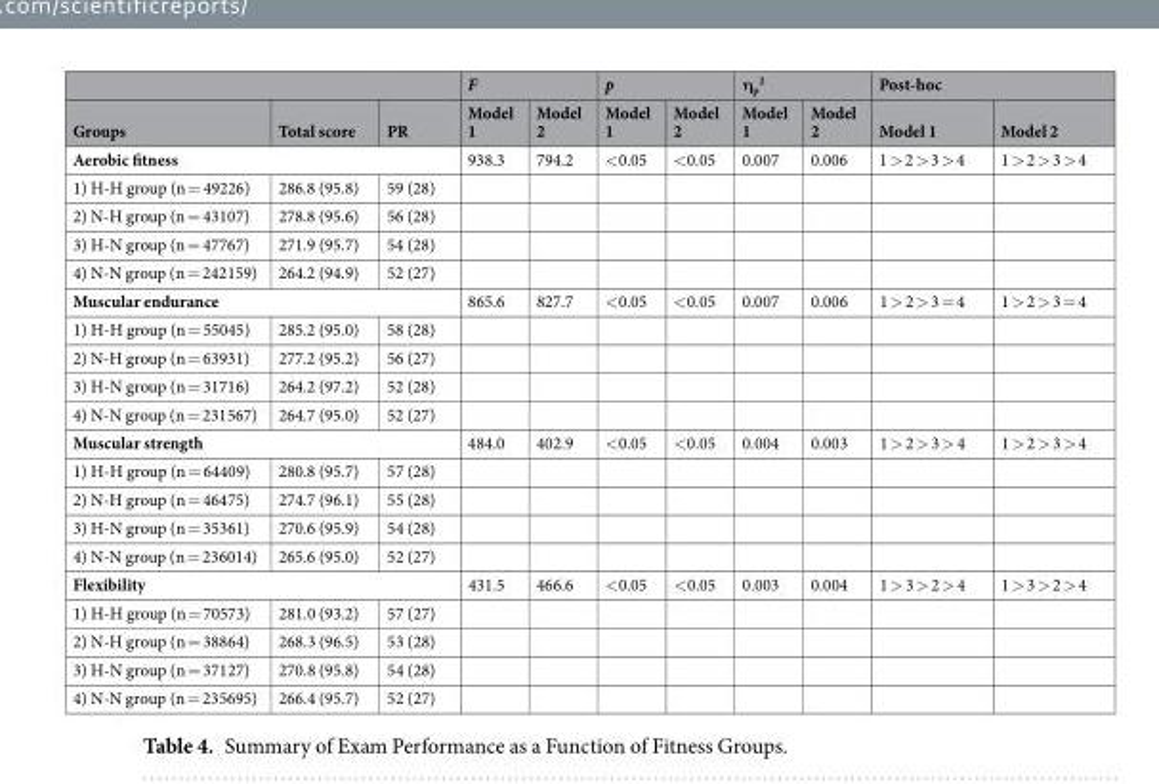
<table><thead><tr><td rowspan="2">Groups</td><td rowspan="2">Total score</td><td rowspan="2">PR</td><td colspan="2">F</td><td colspan="2">p</td><td colspan="2">η<sub>p</sub> <sup>2</sup></td><td colspan="2">Post-hoc</td></tr><tr><td>Model 1</td><td>Model 2</td><td>Model 1</td><td>Model 2</td><td>Model 1</td><td>Model 2</td><td>Model 1</td><td>Model 2</td></tr></thead><tbody><tr><td colspan="3">Aerobic fitness</td><td>938.3</td><td>794.2</td><td>&lt;0.05</td><td>&lt;0.05</td><td>0.007</td><td>0.006</td><td>1 &gt; 2 &gt; 3 &gt; 4</td><td>1 &gt; 2 &gt; 3 &gt; 4</td></tr><tr><td>1) H-H group (n = 49226)</td><td>286.8 (95.8)</td><td>59 (28)</td><td></td><td></td><td></td><td></td><td></td><td></td><td></td><td></td></tr><tr><td>2) N-H group (n = 43107)</td><td>278.8 (95.6)</td><td>56 (28)</td><td></td><td></td><td></td><td></td><td></td><td></td><td></td><td></td></tr><tr><td>3) H-N group (n = 47767)</td><td>271.9 (95.7)</td><td>54 (28)</td><td></td><td></td><td></td><td></td><td></td><td></td><td></td><td></td></tr><tr><td>4) N-N group (n = 242159)</td><td>264.2 (94.9)</td><td>52 (27)</td><td></td><td></td><td></td><td></td><td></td><td></td><td></td><td></td></tr><tr><td colspan="3">Muscular endurance</td><td>865.6</td><td>827.7</td><td>&lt;0.05</td><td>&lt;0.05</td><td>0.007</td><td>0.006</td><td>1 &gt; 2 &gt; 3 = 4</td><td>1 &gt; 2 &gt; 3 = 4</td></tr><tr><td>1) H-H group (n = 55045)</td><td>285.2 (95.0)</td><td>58 (28)</td><td></td><td></td><td></td><td></td><td></td><td></td><td></td><td></td></tr><tr><td>2) N-H group (n = 63931)</td><td>277.2 (95.2)</td><td>56 (27)</td><td></td><td></td><td></td><td></td><td></td><td></td><td></td><td></td></tr><tr><td>3) H-N group (n = 31716)</td><td>264.2 (97.2)</td><td>52 (28)</td><td></td><td></td><td></td><td></td><td></td><td></td><td></td><td></td></tr><tr><td>4) N-N group (n = 231567)</td><td>264.7 (95.0)</td><td>52 (27)</td><td></td><td></td><td></td><td></td><td></td><td></td><td></td><td></td></tr><tr><td colspan="3">Muscular strength</td><td>484.0</td><td>402.9</td><td>&lt;0.05</td><td>&lt;0.05</td><td>0.004</td><td>0.003</td><td>1 &gt; 2 &gt; 3 &gt; 4</td><td>1 &gt; 2 &gt; 3 &gt; 4</td></tr><tr><td>1) H-H group (n = 64409)</td><td>280.8 (95.7)</td><td>57 (28)</td><td></td><td></td><td></td><td></td><td></td><td></td><td></td><td></td></tr><tr><td>2) N-H group (n = 46475)</td><td>274.7 (96.1)</td><td>55 (28)</td><td></td><td></td><td></td><td></td><td></td><td></td><td></td><td></td></tr><tr><td>3) H-N group (n = 35361)</td><td>270.6 (95.9)</td><td>54 (28)</td><td></td><td></td><td></td><td></td><td></td><td></td><td></td><td></td></tr><tr><td>4) N-N group (n = 236014)</td><td>265.6 (95.0)</td><td>52 (27)</td><td></td><td></td><td></td><td></td><td></td><td></td><td></td><td></td></tr><tr><td colspan="3">Flexibility</td><td>431.5</td><td>466.6</td><td>&lt;0.05</td><td>&lt;0.05</td><td>0.003</td><td>0.004</td><td>1 &gt; 3 &gt; 2 &gt; 4</td><td>1 &gt; 3 &gt; 2 &gt; 4</td></tr><tr><td>1) H-H group (n = 70573)</td><td>281.0 (93.2)</td><td>57 (27)</td><td></td><td></td><td></td><td></td><td></td><td></td><td></td><td></td></tr><tr><td>2) N-H group (n = 38864)</td><td>268.3 (96.5)</td><td>53 (28)</td><td></td><td></td><td></td><td></td><td></td><td></td><td></td><td></td></tr><tr><td>3) H-N group (n = 37127)</td><td>270.8 (95.8)</td><td>54 (28)</td><td></td><td></td><td></td><td></td><td></td><td></td><td></td><td></td></tr><tr><td>4) N-N group (n = 235695)</td><td>266.4 (95.7)</td><td>52 (27)</td><td></td><td></td><td></td><td></td><td></td><td></td><td></td><td></td></tr></tbody></table>